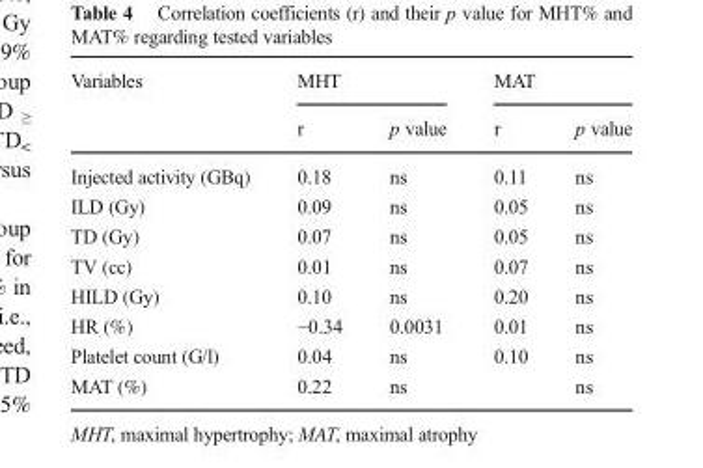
<table><thead><tr><td rowspan="2">Variables</td><td colspan="2">MHT</td><td colspan="2">MAT</td></tr><tr><td>r</td><td>p value</td><td>r</td><td>p value</td></tr></thead><tbody><tr><td>Injected activity (GBq)</td><td>0.18</td><td>ns</td><td>0.11</td><td>ns</td></tr><tr><td>ILD (Gy)</td><td>0.09</td><td>ns</td><td>0.05</td><td>ns</td></tr><tr><td>TD (Gy)</td><td>0.07</td><td>ns</td><td>0.05</td><td>ns</td></tr><tr><td>TV (cc)</td><td>0.01</td><td>ns</td><td>0.07</td><td>ns</td></tr><tr><td>HILD (Gy)</td><td>0.10</td><td>ns</td><td>0.20</td><td>ns</td></tr><tr><td>HR (%)</td><td>−0.34</td><td>0.0031</td><td>0.01</td><td>ns</td></tr><tr><td>Platelet count (G/l)</td><td>0.04</td><td>ns</td><td>0.10</td><td>ns</td></tr><tr><td>MAT (%)</td><td>0.22</td><td>ns</td><td></td><td>ns</td></tr></tbody></table>